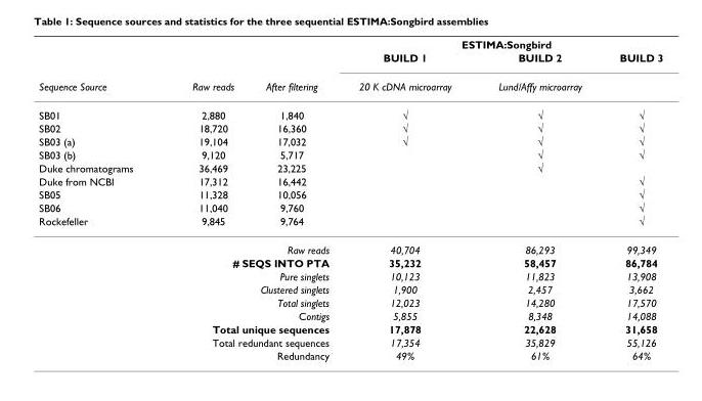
<table><thead><tr><td rowspan="3">Sequence Source</td><td rowspan="3">Raw reads</td><td rowspan="3">After filtering</td><td colspan="3">ESTIMA:Songbird</td></tr><tr><td rowspan="2">BUILD 1 20 K cDNA microarray</td><td rowspan="2">BUILD 2 Lund/Affy microarray</td><td rowspan="2">BUILD 3</td></tr><tr></tr></thead><tbody><tr><td>SB01</td><td>2,880</td><td>1,840</td><td>√</td><td>√</td><td>√</td></tr><tr><td>SB02</td><td>18,720</td><td>16,360</td><td>√</td><td>√</td><td>√</td></tr><tr><td>SB03 (a)</td><td>19,104</td><td>17,032</td><td>√</td><td>√</td><td>√</td></tr><tr><td>SB03 (b)</td><td>9,120</td><td>5,717</td><td></td><td>√</td><td>√</td></tr><tr><td>Duke chromatograms</td><td>36,469</td><td>23,225</td><td></td><td>√</td><td></td></tr><tr><td>Duke from NCBI</td><td>17,312</td><td>16,442</td><td></td><td></td><td>√</td></tr><tr><td>SB05</td><td>11,328</td><td>10,056</td><td></td><td></td><td>√</td></tr><tr><td>SB06</td><td>11,040</td><td>9,760</td><td></td><td></td><td>√</td></tr><tr><td>Rockefeller</td><td>9,845</td><td>9,764</td><td></td><td></td><td>√</td></tr><tr><td colspan="3">Raw reads</td><td>40,704</td><td>86,293</td><td>99,349</td></tr><tr><td colspan="3"># SEQS INTO PTA</td><td>35,232</td><td>58,457</td><td>86,784</td></tr><tr><td colspan="3">Pure singlets</td><td>10,123</td><td>11,823</td><td>13,908</td></tr><tr><td colspan="3">Clustered singlets</td><td>1,900</td><td>2,457</td><td>3,662</td></tr><tr><td colspan="3">Total singlets</td><td>12,023</td><td>14,280</td><td>17,570</td></tr><tr><td colspan="3">Contigs</td><td>5,855</td><td>8,348</td><td>14,088</td></tr><tr><td colspan="3">Total unique sequences</td><td>17,878</td><td>22,628</td><td>31,658</td></tr><tr><td colspan="3">Total redundant sequences</td><td>17,354</td><td>35,829</td><td>55,126</td></tr><tr><td colspan="3">Redundancy</td><td>49%</td><td>61%</td><td>64%</td></tr></tbody></table>